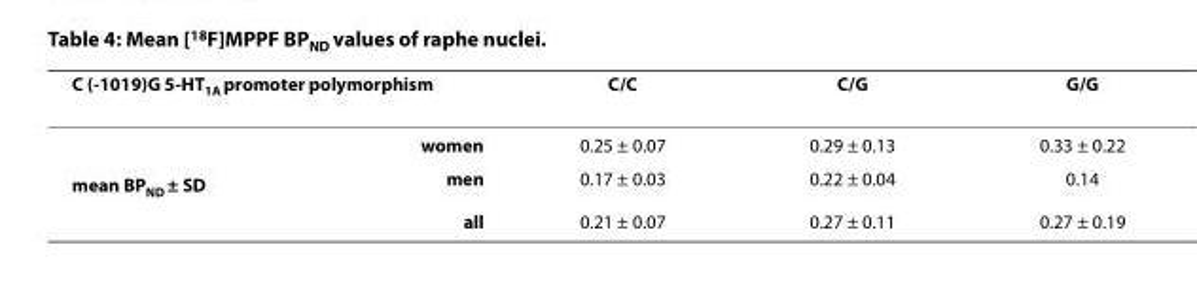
<table><thead><tr><td colspan="2">C (-1019)G 5-HT<sub>1A</sub> promoter polymorphism</td><td rowspan="2">C/C 0.25 ± 0.07</td><td rowspan="2">C/G 0.29 ± 0.13</td><td rowspan="2">G/G 0.33 ± 0.22</td></tr><tr><td></td><td>women</td></tr></thead><tbody><tr><td rowspan="2">mean BP<sub>ND</sub> ± SD</td><td>men</td><td>0.17 ± 0.03</td><td>0.22 ± 0.04</td><td>0.14</td></tr><tr><td>all</td><td>0.21 ± 0.07</td><td>0.27 ± 0.11</td><td>0.27 ± 0.19</td></tr></tbody></table>